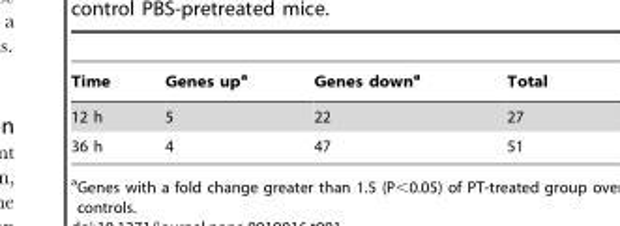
<table><thead><tr><td>Time</td><td>Genes up<sup>a</sup></td><td>Genes down<sup>a</sup></td><td>Total</td></tr></thead><tbody><tr><td>12 h</td><td>5</td><td>22</td><td>27</td></tr><tr><td>36 h</td><td>4</td><td>47</td><td>51</td></tr></tbody></table>